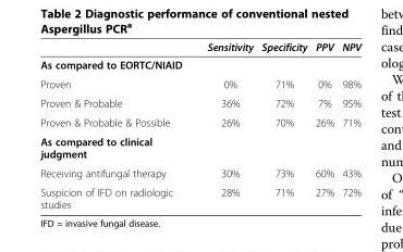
<table><thead><tr><td></td><td>Sensitivity</td><td>Specificity</td><td>PPV</td><td>NPV</td></tr></thead><tbody><tr><td colspan="5">As compared to EORTC/NIAID</td></tr><tr><td>Proven</td><td>0%</td><td>71%</td><td>0%</td><td>98%</td></tr><tr><td>Proven &amp; Probable</td><td>36%</td><td>72%</td><td>7%</td><td>95%</td></tr><tr><td>Proven &amp; Probable &amp; Possible</td><td>26%</td><td>70%</td><td>26%</td><td>71%</td></tr><tr><td colspan="5">As compared to clinical judgment</td></tr><tr><td>Receiving antifungal therapy</td><td>30%</td><td>73%</td><td>60%</td><td>43%</td></tr><tr><td>Suspicion of IFD on radiologic studies</td><td>28%</td><td>71%</td><td>27%</td><td>72%</td></tr></tbody></table>